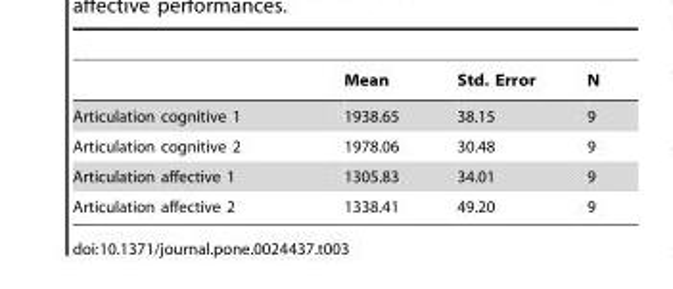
<table><thead><tr><td></td><td>Mean</td><td>Std. Error</td><td>N</td></tr></thead><tbody><tr><td>Articulation cognitive 1</td><td>1938.65</td><td>38.15</td><td>9</td></tr><tr><td>Articulation cognitive 2</td><td>1978.06</td><td>30.48</td><td>9</td></tr><tr><td>Articulation affective 1</td><td>1305.83</td><td>34.01</td><td>9</td></tr><tr><td>Articulation affective 2</td><td>1338.41</td><td>49.20</td><td>9</td></tr></tbody></table>